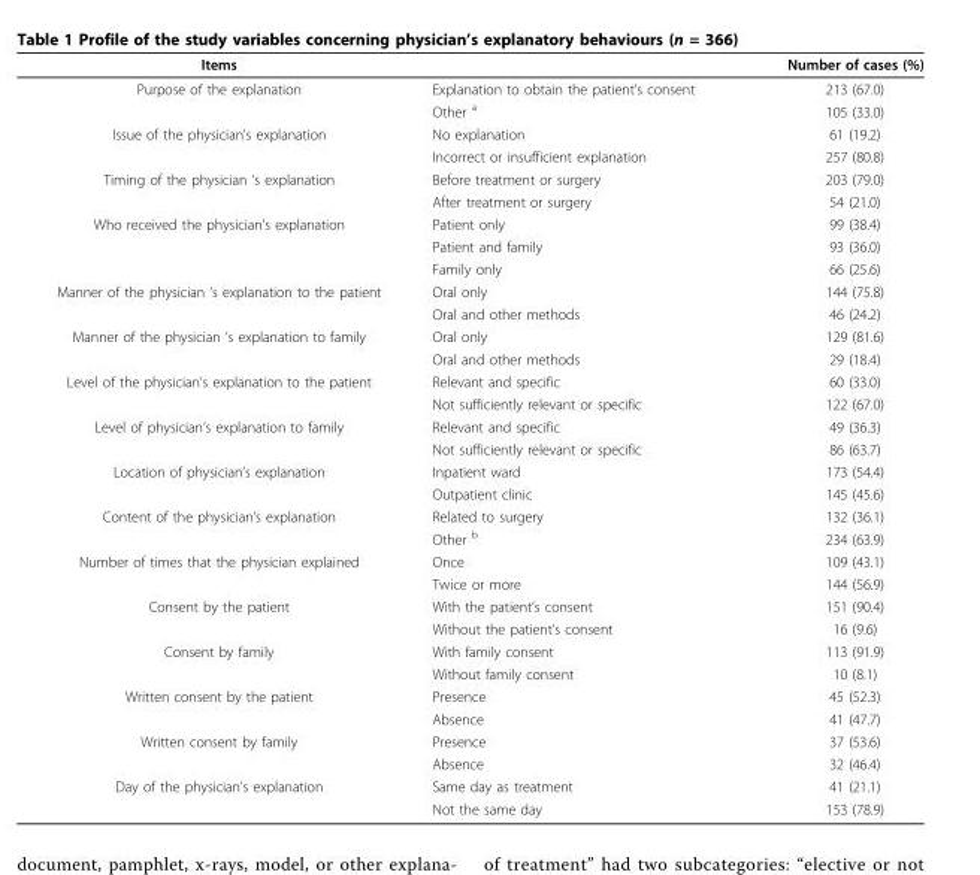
<table><thead><tr><td rowspan="2">Items Purpose of the explanation</td><td colspan="2">Number of cases (%)</td></tr><tr><td>Explanation to obtain the patient’s consent</td><td>213 (67.0)</td></tr></thead><tbody><tr><td></td><td>Other <sup>a</sup></td><td>105 (33.0)</td></tr><tr><td rowspan="2">Issue of the physician’s explanation</td><td>No explanation</td><td>61 (19.2)</td></tr><tr><td>Incorrect or insufficient explanation</td><td>257 (80.8)</td></tr><tr><td rowspan="2">Timing of the physician ‘s explanation</td><td>Before treatment or surgery</td><td>203 (79.0)</td></tr><tr><td>After treatment or surgery</td><td>54 (21.0)</td></tr><tr><td rowspan="3">Who received the physician’s explanation</td><td>Patient only</td><td>99 (38.4)</td></tr><tr><td>Patient and family</td><td>93 (36.0)</td></tr><tr><td>Family only</td><td>66 (25.6)</td></tr><tr><td rowspan="2">Manner of the physician ‘s explanation to the patient</td><td>Oral only</td><td>144 (75.8)</td></tr><tr><td>Oral and other methods</td><td>46 (24.2)</td></tr><tr><td rowspan="2">Manner of the physician ‘s explanation to family</td><td>Oral only</td><td>129 (81.6)</td></tr><tr><td>Oral and other methods</td><td>29 (18.4)</td></tr><tr><td rowspan="2">Level of the physician’s explanation to the patient</td><td>Relevant and specific</td><td>60 (33.0)</td></tr><tr><td>Not sufficiently relevant or specific</td><td>122 (67.0)</td></tr><tr><td rowspan="2">Level of physician’s explanation to family</td><td>Relevant and specific</td><td>49 (36.3)</td></tr><tr><td>Not sufficiently relevant or specific</td><td>86 (63.7)</td></tr><tr><td rowspan="2">Location of physician’s explanation</td><td>Inpatient ward</td><td>173 (54.4)</td></tr><tr><td>Outpatient clinic</td><td>145 (45.6)</td></tr><tr><td rowspan="2">Content of the physician’s explanation</td><td>Related to surgery</td><td>132 (36.1)</td></tr><tr><td>Other <sup>b</sup></td><td>234 (63.9)</td></tr><tr><td rowspan="2">Number of times that the physician explained</td><td>Once</td><td>109 (43.1)</td></tr><tr><td>Twice or more</td><td>144 (56.9)</td></tr><tr><td rowspan="2">Consent by the patient</td><td>With the patient’s consent</td><td>151 (90.4)</td></tr><tr><td>Without the patient’s consent</td><td>16 (9.6)</td></tr><tr><td rowspan="2">Consent by family</td><td>With family consent</td><td>113 (91.9)</td></tr><tr><td>Without family consent</td><td>10 (8.1)</td></tr><tr><td rowspan="2">Written consent by the patient</td><td>Presence</td><td>45 (52.3)</td></tr><tr><td>Absence</td><td>41 (47.7)</td></tr><tr><td rowspan="2">Written consent by family</td><td>Presence</td><td>37 (53.6)</td></tr><tr><td>Absence</td><td>32 (46.4)</td></tr><tr><td rowspan="2">Day of the physician’s explanation</td><td>Same day as treatment</td><td>41 (21.1)</td></tr><tr><td>Not the same day</td><td>153 (78.9)</td></tr></tbody></table>